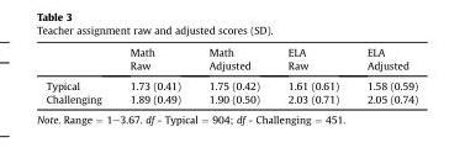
<table><thead><tr><td></td><td>Math Raw</td><td>Math Adjusted</td><td>ELA Raw</td><td>ELA Adjusted</td></tr></thead><tbody><tr><td>Typical</td><td>1.73 (0.41)</td><td>1.75 (0.42)</td><td>1.61 (0.61)</td><td>1.58 (0.59)</td></tr><tr><td>Challenging</td><td>1.89 (0.49)</td><td>1.90 (0.50)</td><td>2.03 (0.71)</td><td>2.05 (0.74)</td></tr></tbody></table>